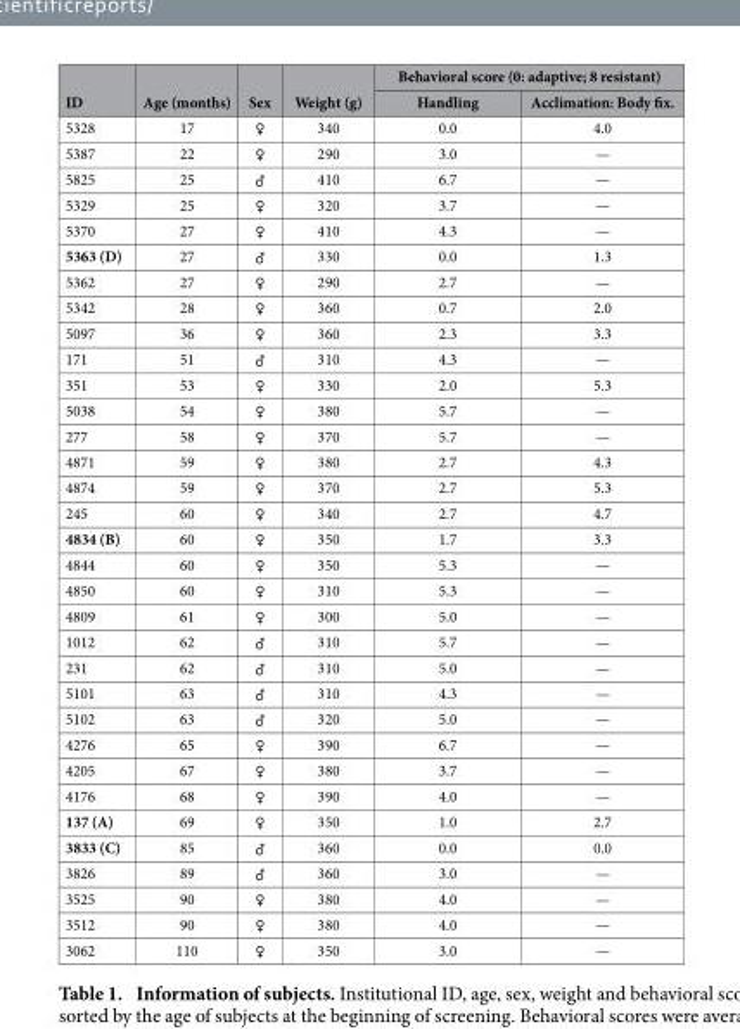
<table><thead><tr><td rowspan="2">ID</td><td rowspan="2">Age (months)</td><td rowspan="2">Sex</td><td rowspan="2">Weight (g)</td><td colspan="2">Behavioral score (0: adaptive; 8 resistant)</td></tr><tr><td>Handling</td><td>Acclimation: Body fix.</td></tr></thead><tbody><tr><td>5328</td><td>17</td><td>♀</td><td>340</td><td>0.0</td><td>4.0</td></tr><tr><td>5387</td><td>22</td><td>♀</td><td>290</td><td>3.0</td><td>—</td></tr><tr><td>5825</td><td>25</td><td>♂</td><td>410</td><td>6.7</td><td>—</td></tr><tr><td>5329</td><td>25</td><td>♀</td><td>320</td><td>3.7</td><td>—</td></tr><tr><td>5370</td><td>27</td><td>♀</td><td>410</td><td>4.3</td><td>—</td></tr><tr><td>5363 (D)</td><td>27</td><td>♂</td><td>330</td><td>0.0</td><td>1.3</td></tr><tr><td>5362</td><td>27</td><td>♀</td><td>290</td><td>2.7</td><td>—</td></tr><tr><td>5342</td><td>28</td><td>♀</td><td>360</td><td>0.7</td><td>2.0</td></tr><tr><td>5097</td><td>36</td><td>♀</td><td>360</td><td>2.3</td><td>3.3</td></tr><tr><td>171</td><td>51</td><td>♂</td><td>310</td><td>4.3</td><td>—</td></tr><tr><td>351</td><td>53</td><td>♀</td><td>330</td><td>2.0</td><td>5.3</td></tr><tr><td>5038</td><td>54</td><td>♀</td><td>380</td><td>5.7</td><td>—</td></tr><tr><td>277</td><td>58</td><td>♀</td><td>370</td><td>5.7</td><td>—</td></tr><tr><td>4871</td><td>59</td><td>♀</td><td>380</td><td>2.7</td><td>4.3</td></tr><tr><td>4874</td><td>59</td><td>♀</td><td>370</td><td>2.7</td><td>5.3</td></tr><tr><td>245</td><td>60</td><td>♀</td><td>340</td><td>2.7</td><td>4.7</td></tr><tr><td>4834 (B)</td><td>60</td><td>♀</td><td>350</td><td>1.7</td><td>3.3</td></tr><tr><td>4844</td><td>60</td><td>♀</td><td>350</td><td>5.3</td><td>—</td></tr><tr><td>4850</td><td>60</td><td>♀</td><td>310</td><td>5.3</td><td>—</td></tr><tr><td>4809</td><td>61</td><td>♀</td><td>300</td><td>5.0</td><td>—</td></tr><tr><td>1012</td><td>62</td><td>♂</td><td>310</td><td>5.7</td><td>—</td></tr><tr><td>231</td><td>62</td><td>♂</td><td>310</td><td>5.0</td><td>—</td></tr><tr><td>5101</td><td>63</td><td>♂</td><td>310</td><td>4.3</td><td>—</td></tr><tr><td>5102</td><td>63</td><td>♂</td><td>320</td><td>5.0</td><td>—</td></tr><tr><td>4276</td><td>65</td><td>♀</td><td>390</td><td>6.7</td><td>—</td></tr><tr><td>4205</td><td>67</td><td>♀</td><td>380</td><td>3.7</td><td>—</td></tr><tr><td>4176</td><td>68</td><td>♀</td><td>390</td><td>4.0</td><td>—</td></tr><tr><td>137 (A)</td><td>69</td><td>♀</td><td>350</td><td>1.0</td><td>2.7</td></tr><tr><td>3833 (C)</td><td>85</td><td>♂</td><td>360</td><td>0.0</td><td>0.0</td></tr><tr><td>3826</td><td>89</td><td>♂</td><td>360</td><td>3.0</td><td>—</td></tr><tr><td>3525</td><td>90</td><td>♀</td><td>380</td><td>4.0</td><td>—</td></tr><tr><td>3512</td><td>90</td><td>♀</td><td>380</td><td>4.0</td><td>—</td></tr><tr><td>3062</td><td>110</td><td>♀</td><td>350</td><td>3.0</td><td>—</td></tr></tbody></table>